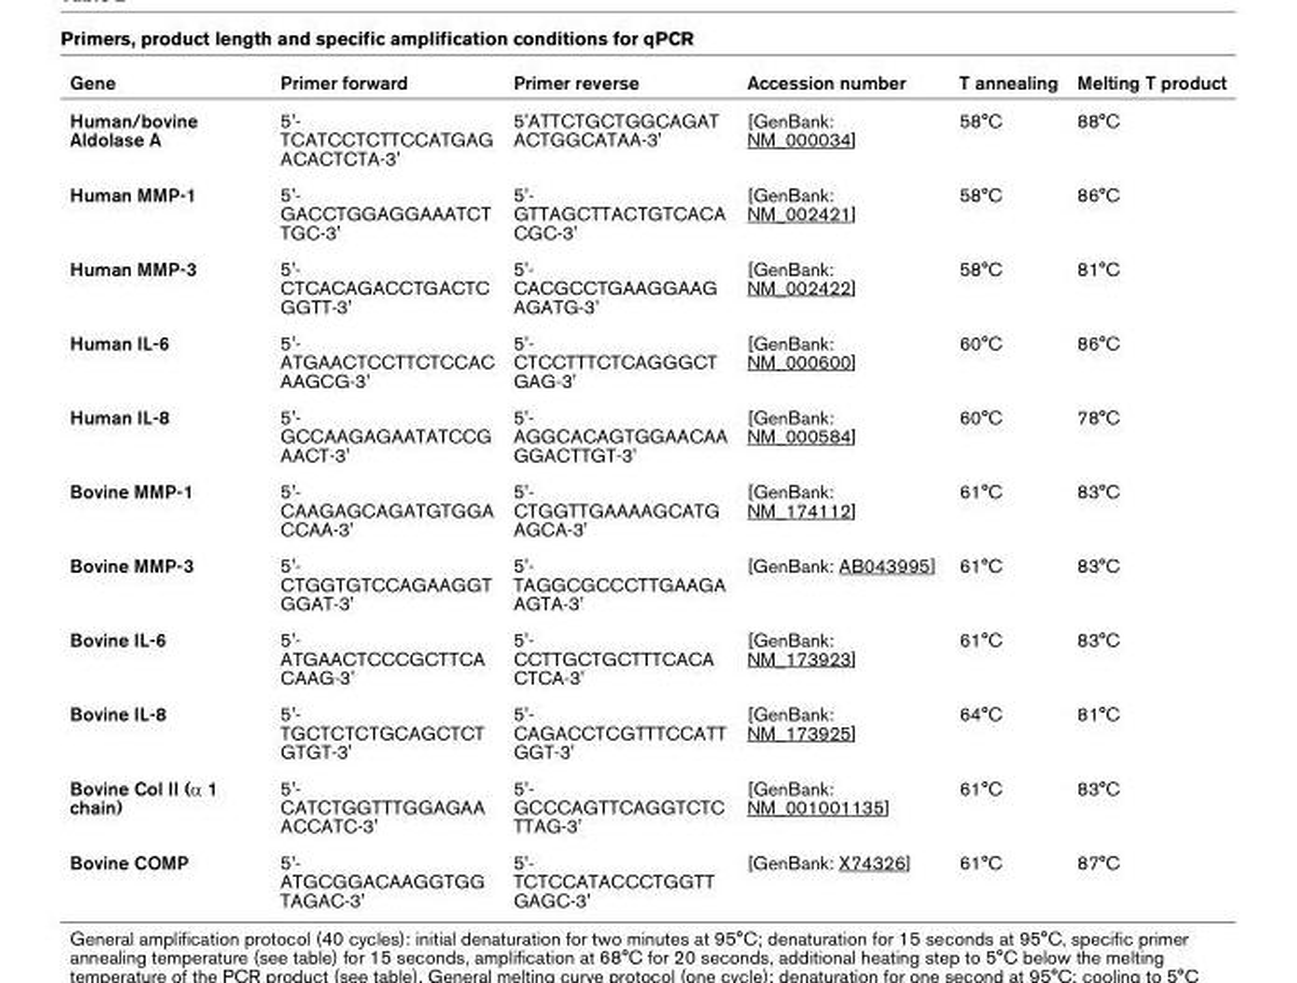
<table><thead><tr><td>Gene</td><td>Primer forward</td><td>Primer reverse</td><td>Accession number</td><td>T annealing</td><td>Melting T product</td></tr></thead><tbody><tr><td>Human/bovine Aldolase A</td><td>5&#x27;- TCATCCTCTTCCATGAG ACACTCTA-3&#x27;</td><td>5&#x27;ATTCTGCTGGCAGAT ACTGGCATAA-3&#x27;</td><td>[GenBank: NM_000034]</td><td>58°C</td><td>88°C</td></tr><tr><td>Human MMP-1</td><td>5&#x27;- GACCTGGAGGAAATCT TGC-3&#x27;</td><td>5&#x27;- GTTAGCTTACTGTCACA CGC-3&#x27;</td><td>[GenBank: NM_002421]</td><td>58°C</td><td>86°C</td></tr><tr><td>Human MMP-3</td><td>5&#x27;- CTCACAGACCTGACTC GGTT-3&#x27;</td><td>5&#x27;- CACGCCTGAAGGAAG AGATG-3&#x27;</td><td>[GenBank: NM_002422]</td><td>58°C</td><td>81°C</td></tr><tr><td>Human IL-6</td><td>5&#x27;- ATGAACTCCTTCTCCAC AAGCG-3&#x27;</td><td>5&#x27;- CTCCTTTCTCAGGGCT GAG-3&#x27;</td><td>[GenBank: NM_000600]</td><td>60°C</td><td>86°C</td></tr><tr><td>Human IL-8</td><td>5&#x27;- GCCAAGAGAATATCCG AACT-3&#x27;</td><td>5&#x27;- AGGCACAGTGGAACAA GGACTTGT-3&#x27;</td><td>[GenBank: NM_000584]</td><td>60°C</td><td>78°C</td></tr><tr><td>Bovine MMP-1</td><td>5&#x27;- CAAGAGCAGATGTGGA CCAA-3&#x27;</td><td>5&#x27;- CTGGTTGAAAAGCATG AGCA-3&#x27;</td><td>[GenBank: NM_174112]</td><td>61°C</td><td>83°C</td></tr><tr><td>Bovine MMP-3</td><td>5&#x27;- CTGGTGTCCAGAAGGT GGAT-3&#x27;</td><td>5&#x27;- TAGGCGCCCTTGAAGA AGTA-3&#x27;</td><td>[GenBank: AB043995]</td><td>61°C</td><td>83°C</td></tr><tr><td>Bovine IL-6</td><td>5&#x27;- ATGAACTCCCGCTTCA CAAG-3&#x27;</td><td>5&#x27;- CCTTGCTGCTTTCACA CTCA-3&#x27;</td><td>[GenBank: NM_173923]</td><td>61°C</td><td>83°C</td></tr><tr><td>Bovine IL-8</td><td>5&#x27;- TGCTCTCTGCAGCTCT GTGT-3&#x27;</td><td>5&#x27;- CAGACCTCGTTTCCATT GGT-3&#x27;</td><td>[GenBank: NM_173925]</td><td>64°C</td><td>81°C</td></tr><tr><td>Bovine Col II (α 1 chain)</td><td>5&#x27;- CATCTGGTTTGGAGAA ACCATC-3&#x27;</td><td>5&#x27;- GCCCAGTTCAGGTCTC TTAG-3&#x27;</td><td>[GenBank: NM_001001135]</td><td>61°C</td><td>83°C</td></tr><tr><td>Bovine COMP</td><td>5&#x27;- ATGCGGACAAGGTGG TAGAC-3&#x27;</td><td>5&#x27;- TCTCCATACCCTGGTT GAGC-3&#x27;</td><td>[GenBank: X74326]</td><td>61°C</td><td>87°C</td></tr></tbody></table>